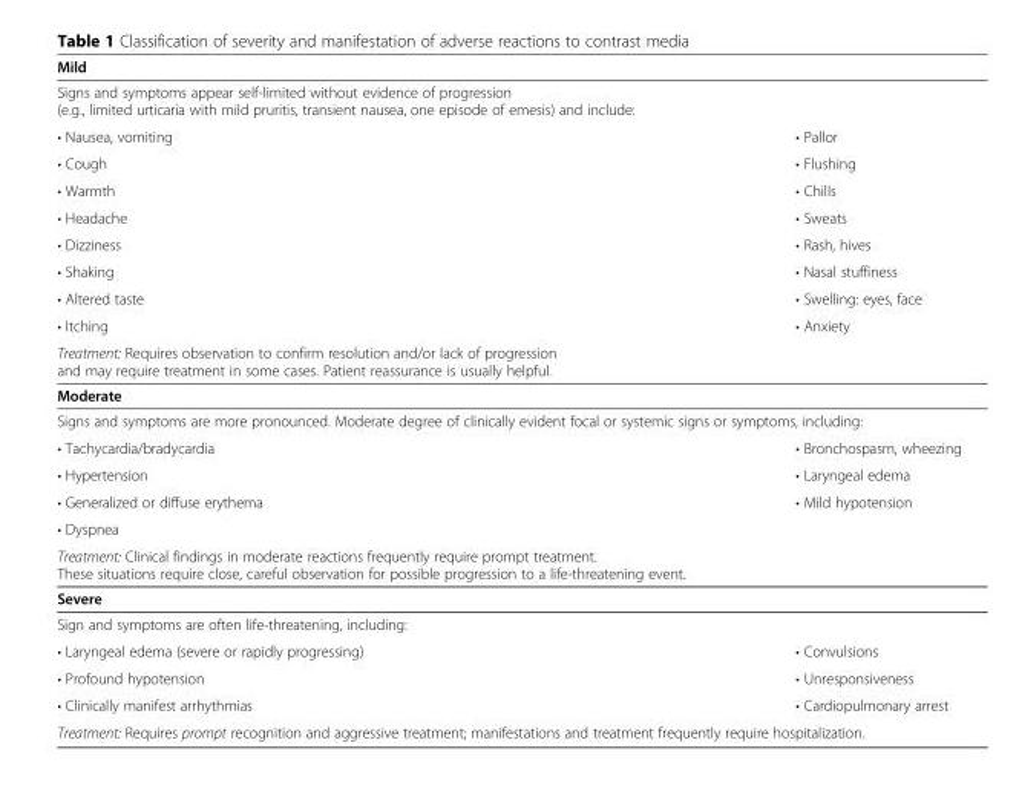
<table><thead><tr><td>Mild</td><td></td></tr></thead><tbody><tr><td colspan="2">Signs and symptoms appear self-limited without evidence of progression (e.g., limited urticaria with mild pruritis, transient nausea, one episode of emesis) and include:</td></tr><tr><td>• Nausea, vomiting</td><td>• Pallor</td></tr><tr><td>• Cough</td><td>• Flushing</td></tr><tr><td>• Warmth</td><td>• Chills</td></tr><tr><td>• Headache</td><td>• Sweats</td></tr><tr><td>• Dizziness</td><td>• Rash, hives</td></tr><tr><td>• Shaking</td><td>• Nasal stuffiness</td></tr><tr><td>• Altered taste</td><td>• Swelling: eyes, face</td></tr><tr><td>• Itching</td><td>• Anxiety</td></tr><tr><td colspan="2">Treatment: Requires observation to confirm resolution and/or lack of progression and may require treatment in some cases. Patient reassurance is usually helpful.</td></tr><tr><td colspan="2">Moderate</td></tr><tr><td colspan="2">Signs and symptoms are more pronounced. Moderate degree of clinically evident focal or systemic signs or symptoms, including:</td></tr><tr><td>• Tachycardia/bradycardia</td><td>• Bronchospasm, wheezing</td></tr><tr><td>• Hypertension</td><td>• Laryngeal edema</td></tr><tr><td>• Generalized or diffuse erythema</td><td>• Mild hypotension</td></tr><tr><td colspan="2">• Dyspnea</td></tr><tr><td colspan="2">Treatment: Clinical findings in moderate reactions frequently require prompt treatment. These situations require close, careful observation for possible progression to a life-threatening event.</td></tr><tr><td colspan="2">Severe</td></tr><tr><td colspan="2">Sign and symptoms are often life-threatening, including:</td></tr><tr><td>• Laryngeal edema (severe or rapidly progressing)</td><td>• Convulsions</td></tr><tr><td>• Profound hypotension</td><td>• Unresponsiveness</td></tr><tr><td>• Clinically manifest arrhythmias</td><td>• Cardiopulmonary arrest</td></tr><tr><td colspan="2">Treatment: Requires prompt recognition and aggressive treatment; manifestations and treatment frequently require hospitalization.</td></tr></tbody></table>